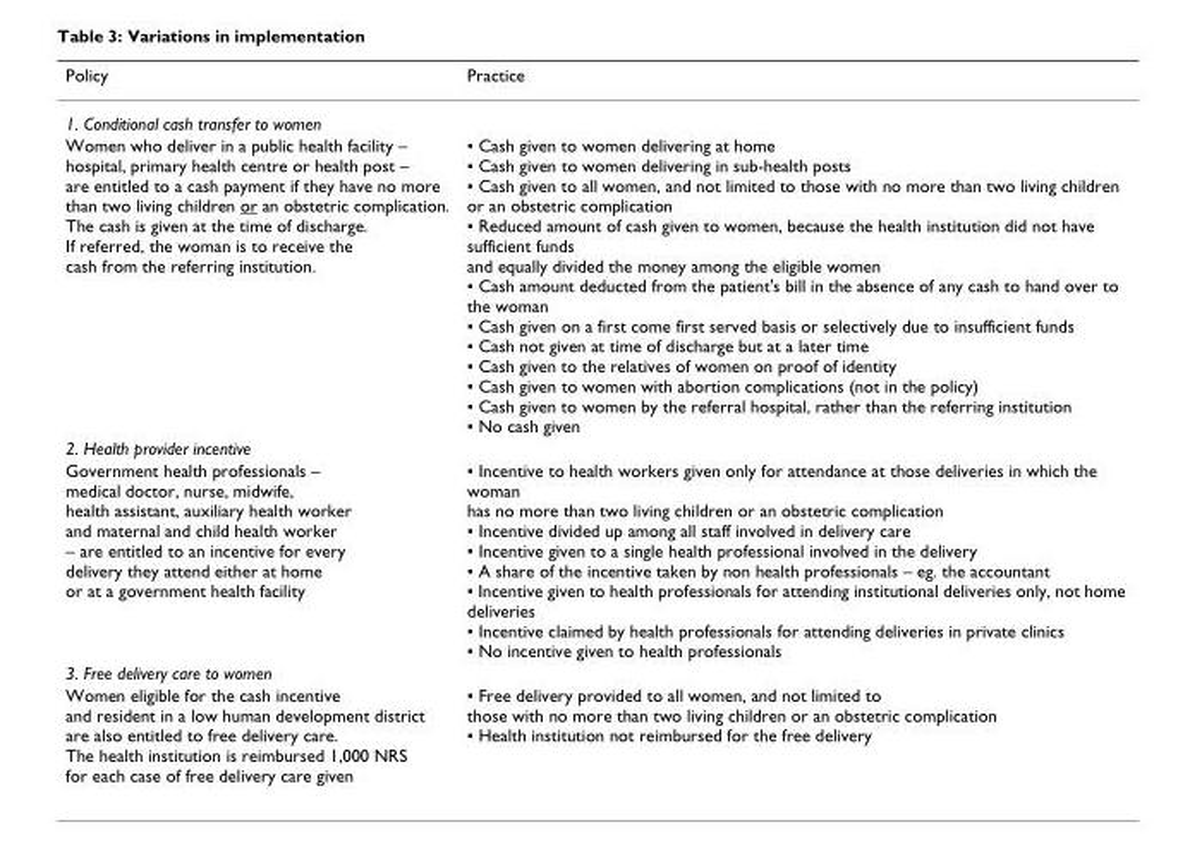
<table><thead><tr><td>Policy</td><td>Practice</td></tr></thead><tbody><tr><td colspan="2">1. Conditional cash transfer to women</td></tr><tr><td>Women who deliver in a public health facility – hospital, primary health centre or health post – are entitled to a cash payment if they have no more than two living children or an obstetric complication. The cash is given at the time of discharge. If referred, the woman is to receive the cash from the referring institution.</td><td>▪ Cash given to women delivering at home ▪ Cash given to women delivering in sub-health posts ▪ Cash given to all women, and not limited to those with no more than two living children or an obstetric complication ▪ Reduced amount of cash given to women, because the health institution did not have sufficient funds and equally divided the money among the eligible women ▪ Cash amount deducted from the patient&#x27;s bill in the absence of any cash to hand over to the woman ▪ Cash given on a first come first served basis or selectively due to insufficient funds ▪ Cash not given at time of discharge but at a later time ▪ Cash given to the relatives of women on proof of identity ▪ Cash given to women with abortion complications (not in the policy) ▪ Cash given to women by the referral hospital, rather than the referring institution ▪ No cash given</td></tr><tr><td colspan="2">2. Health provider incentive</td></tr><tr><td>Government health professionals – medical doctor, nurse, midwife, health assistant, auxiliary health worker and maternal and child health worker – are entitled to an incentive for every delivery they attend either at home or at a government health facility</td><td>▪ Incentive to health workers given only for attendance at those deliveries in which the woman has no more than two living children or an obstetric complication ▪ Incentive divided up among all staff involved in delivery care ▪ Incentive given to a single health professional involved in the delivery ▪ A share of the incentive taken by non health professionals – eg. the accountant ▪ Incentive given to health professionals for attending institutional deliveries only, not home deliveries ▪ Incentive claimed by health professionals for attending deliveries in private clinics ▪ No incentive given to health professionals</td></tr><tr><td colspan="2">3. Free delivery care to women</td></tr><tr><td>Women eligible for the cash incentive and resident in a low human development district are also entitled to free delivery care. The health institution is reimbursed 1,000 NRS for each case of free delivery care given</td><td>▪ Free delivery provided to all women, and not limited to those with no more than two living children or an obstetric complication ▪ Health institution not reimbursed for the free delivery</td></tr></tbody></table>